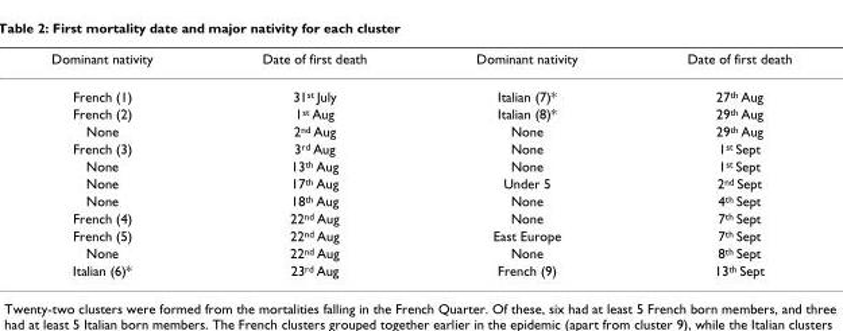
<table><thead><tr><td>Dominant nativity</td><td>Date of first death</td><td>Dominant nativity</td><td>Date of first death</td></tr></thead><tbody><tr><td>French (1)</td><td>31<sup>st</sup> July</td><td>Italian (7)*</td><td>27<sup>th</sup> Aug</td></tr><tr><td>French (2)</td><td>1<sup>st</sup> Aug</td><td>Italian (8)*</td><td>29<sup>th</sup> Aug</td></tr><tr><td>None</td><td>2<sup>nd</sup> Aug</td><td>None</td><td>29<sup>th</sup> Aug</td></tr><tr><td>French (3)</td><td>3<sup>rd</sup> Aug</td><td>None</td><td>1<sup>st</sup> Sept</td></tr><tr><td>None</td><td>13<sup>th</sup> Aug</td><td>None</td><td>1<sup>st</sup> Sept</td></tr><tr><td>None</td><td>17<sup>th</sup> Aug</td><td>Under 5</td><td>2<sup>nd</sup> Sept</td></tr><tr><td>None</td><td>18<sup>th</sup> Aug</td><td>None</td><td>4<sup>th</sup> Sept</td></tr><tr><td>French (4)</td><td>22<sup>nd</sup> Aug</td><td>None</td><td>7<sup>th</sup> Sept</td></tr><tr><td>French (5)</td><td>22<sup>nd</sup> Aug</td><td>East Europe</td><td>7<sup>th</sup> Sept</td></tr><tr><td>None</td><td>22<sup>nd</sup> Aug</td><td>None</td><td>8<sup>th</sup> Sept</td></tr><tr><td>Italian (6)*</td><td>23<sup>rd</sup> Aug</td><td>French (9)</td><td>13<sup>th</sup> Sept</td></tr></tbody></table>